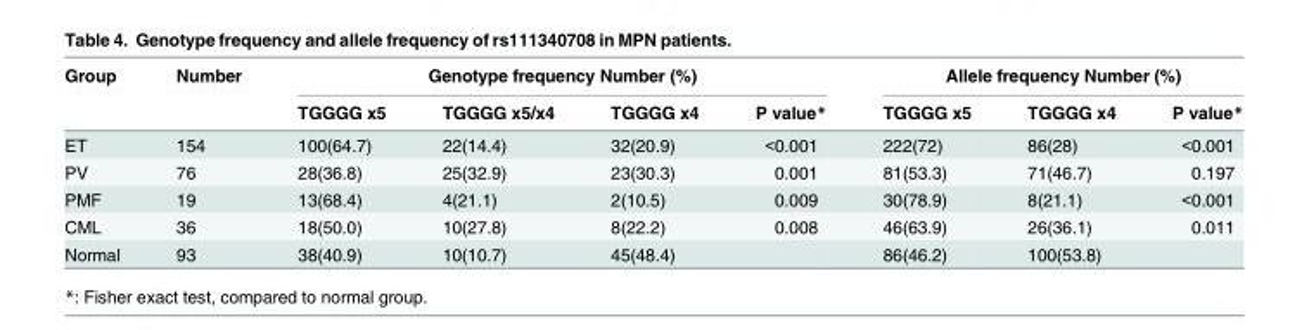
<table><thead><tr><td rowspan="2">Group</td><td rowspan="2">Number</td><td colspan="4">Genotype frequency Number (%)</td><td colspan="3">Allele frequency Number (%)</td></tr><tr><td>TGGGG x5</td><td>TGGGG x5/x4</td><td>TGGGG x4</td><td>P value*</td><td>TGGGG x5</td><td>TGGGG x4</td><td>P value*</td></tr></thead><tbody><tr><td>ET</td><td>154</td><td>100(64.7)</td><td>22(14.4)</td><td>32(20.9)</td><td>&lt;0.001</td><td>222(72)</td><td>86(28)</td><td>&lt;0.001</td></tr><tr><td>PV</td><td>76</td><td>28(36.8)</td><td>25(32.9)</td><td>23(30.3)</td><td>0.001</td><td>81(53.3)</td><td>71(46.7)</td><td>0.197</td></tr><tr><td>PMF</td><td>19</td><td>13(68.4)</td><td>4(21.1)</td><td>2(10.5)</td><td>0.009</td><td>30(78.9)</td><td>8(21.1)</td><td>&lt;0.001</td></tr><tr><td>CML</td><td>36</td><td>18(50.0)</td><td>10(27.8)</td><td>8(22.2)</td><td>0.008</td><td>46(63.9)</td><td>26(36.1)</td><td>0.011</td></tr><tr><td>Normal</td><td>93</td><td>38(40.9)</td><td>10(10.7)</td><td>45(48.4)</td><td></td><td>86(46.2)</td><td>100(53.8)</td><td></td></tr></tbody></table>